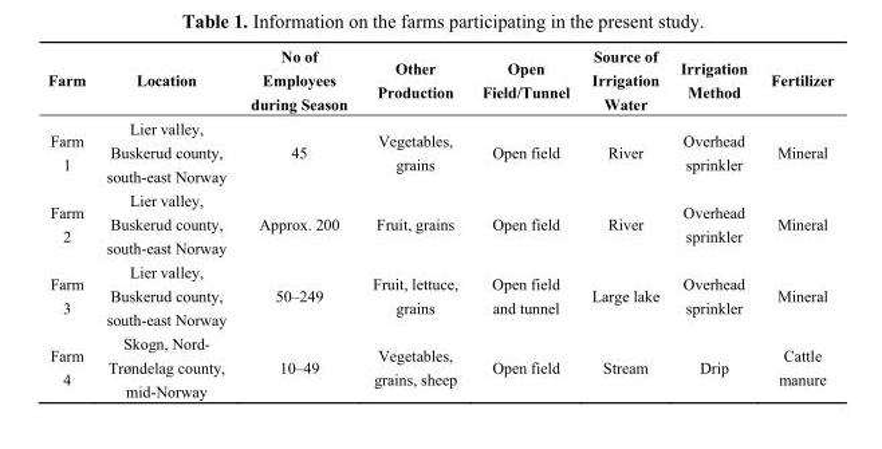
<table><thead><tr><td>Farm</td><td>Location</td><td>No of Employees during Season</td><td>Other Production</td><td>Open Field/Tunnel</td><td>Source of Irrigation Water</td><td>Irrigation Method</td><td>Fertilizer</td></tr></thead><tbody><tr><td>Farm 1</td><td>Lier valley, Buskerud county, south-east Norway</td><td>45</td><td>Vegetables, grains</td><td>Open field</td><td>River</td><td>Overhead sprinkler</td><td>Mineral</td></tr><tr><td>Farm 2</td><td>Lier valley, Buskerud county, south-east Norway</td><td>Approx. 200</td><td>Fruit, grains</td><td>Open field</td><td>River</td><td>Overhead sprinkler</td><td>Mineral</td></tr><tr><td>Farm 3</td><td>Lier valley, Buskerud county, south-east Norway</td><td>50–249</td><td>Fruit, lettuce, grains</td><td>Open field and tunnel</td><td>Large lake</td><td>Overhead sprinkler</td><td>Mineral</td></tr><tr><td>Farm 4</td><td>Skogn, Nord- Trøndelag county, mid-Norway</td><td>10–49</td><td>Vegetables, grains, sheep</td><td>Open field</td><td>Stream</td><td>Drip</td><td>Cattle manure</td></tr></tbody></table>